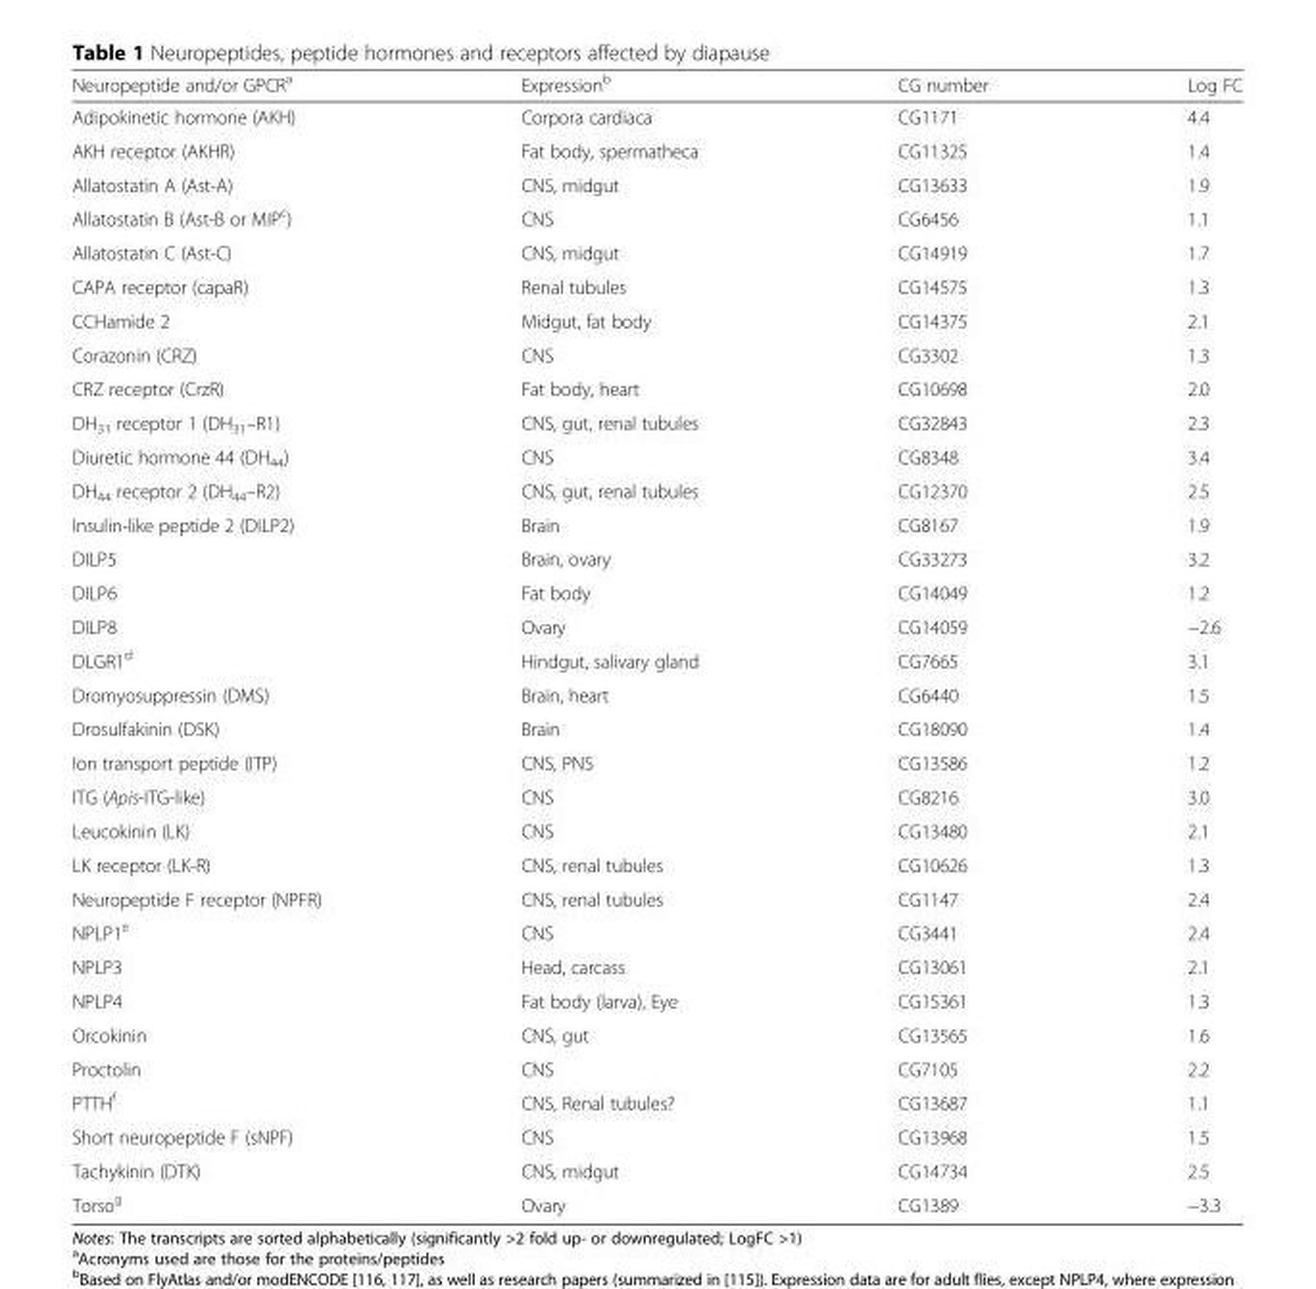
<table><thead><tr><td>Neuropeptide and/or GPCR<sup>a</sup></td><td>Expression<sup>b</sup></td><td>CG number</td><td>Log FC</td></tr></thead><tbody><tr><td>Adipokinetic hormone (AKH)</td><td>Corpora cardiaca</td><td>CG1171</td><td>4.4</td></tr><tr><td>AKH receptor (AKHR)</td><td>Fat body, spermatheca</td><td>CG11325</td><td>1.4</td></tr><tr><td>Allatostatin A (Ast-A)</td><td>CNS, midgut</td><td>CG13633</td><td>1.9</td></tr><tr><td>Allatostatin B (Ast-B or MIP<sup>c</sup>)</td><td>CNS</td><td>CG6456</td><td>1.1</td></tr><tr><td>Allatostatin C (Ast-C)</td><td>CNS, midgut</td><td>CG14919</td><td>1.7</td></tr><tr><td>CAPA receptor (capaR)</td><td>Renal tubules</td><td>CG14575</td><td>1.3</td></tr><tr><td>CCHamide 2</td><td>Midgut, fat body</td><td>CG14375</td><td>2.1</td></tr><tr><td>Corazonin (CRZ)</td><td>CNS</td><td>CG3302</td><td>1.3</td></tr><tr><td>CRZ receptor (CrzR)</td><td>Fat body, heart</td><td>CG10698</td><td>2.0</td></tr><tr><td>DH<sub>31</sub> receptor 1 (DH<sub>31</sub>–R1)</td><td>CNS, gut, renal tubules</td><td>CG32843</td><td>2.3</td></tr><tr><td>Diuretic hormone 44 (DH<sub>44</sub>)</td><td>CNS</td><td>CG8348</td><td>3.4</td></tr><tr><td>DH<sub>44</sub> receptor 2 (DH<sub>44</sub>–R2)</td><td>CNS, gut, renal tubules</td><td>CG12370</td><td>2.5</td></tr><tr><td>Insulin-like peptide 2 (DILP2)</td><td>Brain</td><td>CG8167</td><td>1.9</td></tr><tr><td>DILP5</td><td>Brain, ovary</td><td>CG33273</td><td>3.2</td></tr><tr><td>DILP6</td><td>Fat body</td><td>CG14049</td><td>1.2</td></tr><tr><td>DILP8</td><td>Ovary</td><td>CG14059</td><td>−2.6</td></tr><tr><td>DLGR1<sup>d</sup></td><td>Hindgut, salivary gland</td><td>CG7665</td><td>3.1</td></tr><tr><td>Dromyosuppressin (DMS)</td><td>Brain, heart</td><td>CG6440</td><td>1.5</td></tr><tr><td>Drosulfakinin (DSK)</td><td>Brain</td><td>CG18090</td><td>1.4</td></tr><tr><td>Ion transport peptide (ITP)</td><td>CNS, PNS</td><td>CG13586</td><td>1.2</td></tr><tr><td>ITG (Apis-ITG-like)</td><td>CNS</td><td>CG8216</td><td>3.0</td></tr><tr><td>Leucokinin (LK)</td><td>CNS</td><td>CG13480</td><td>2.1</td></tr><tr><td>LK receptor (LK-R)</td><td>CNS, renal tubules</td><td>CG10626</td><td>1.3</td></tr><tr><td>Neuropeptide F receptor (NPFR)</td><td>CNS, renal tubules</td><td>CG1147</td><td>2.4</td></tr><tr><td>NPLP1<sup>e</sup></td><td>CNS</td><td>CG3441</td><td>2.4</td></tr><tr><td>NPLP3</td><td>Head, carcass</td><td>CG13061</td><td>2.1</td></tr><tr><td>NPLP4</td><td>Fat body (larva), Eye</td><td>CG15361</td><td>1.3</td></tr><tr><td>Orcokinin</td><td>CNS, gut</td><td>CG13565</td><td>1.6</td></tr><tr><td>Proctolin</td><td>CNS</td><td>CG7105</td><td>2.2</td></tr><tr><td>PTTH<sup>f</sup></td><td>CNS, Renal tubules?</td><td>CG13687</td><td>1.1</td></tr><tr><td>Short neuropeptide F (sNPF)</td><td>CNS</td><td>CG13968</td><td>1.5</td></tr><tr><td>Tachykinin (DTK)</td><td>CNS, midgut</td><td>CG14734</td><td>2.5</td></tr><tr><td>Torso<sup>g</sup></td><td>Ovary</td><td>CG1389</td><td>−3.3</td></tr></tbody></table>